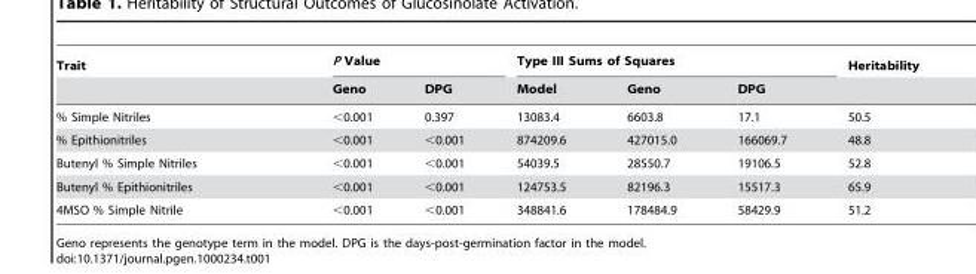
<table><thead><tr><td rowspan="2">Trait</td><td colspan="2">P Value</td><td colspan="3">Type III Sums of Squares</td><td rowspan="2">Heritability</td></tr><tr><td>Geno</td><td>DPG</td><td>Model</td><td>Geno</td><td>DPG</td></tr></thead><tbody><tr><td>% Simple Nitriles</td><td>&lt;0.001</td><td>0.397</td><td>13083.4</td><td>6603.8</td><td>17.1</td><td>50.5</td></tr><tr><td>% Epithionitriles</td><td>&lt;0.001</td><td>&lt;0.001</td><td>874209.6</td><td>427015.0</td><td>166069.7</td><td>48.8</td></tr><tr><td>Butenyl % Simple Nitriles</td><td>&lt;0.001</td><td>&lt;0.001</td><td>54039.5</td><td>28550.7</td><td>19106.5</td><td>52.8</td></tr><tr><td>Butenyl % Epithionitriles</td><td>&lt;0.001</td><td>&lt;0.001</td><td>124753.5</td><td>82196.3</td><td>15517.3</td><td>65.9</td></tr><tr><td>4MSO % Simple Nitrile</td><td>&lt;0.001</td><td>&lt;0.001</td><td>348841.6</td><td>178484.9</td><td>58429.9</td><td>51.2</td></tr></tbody></table>